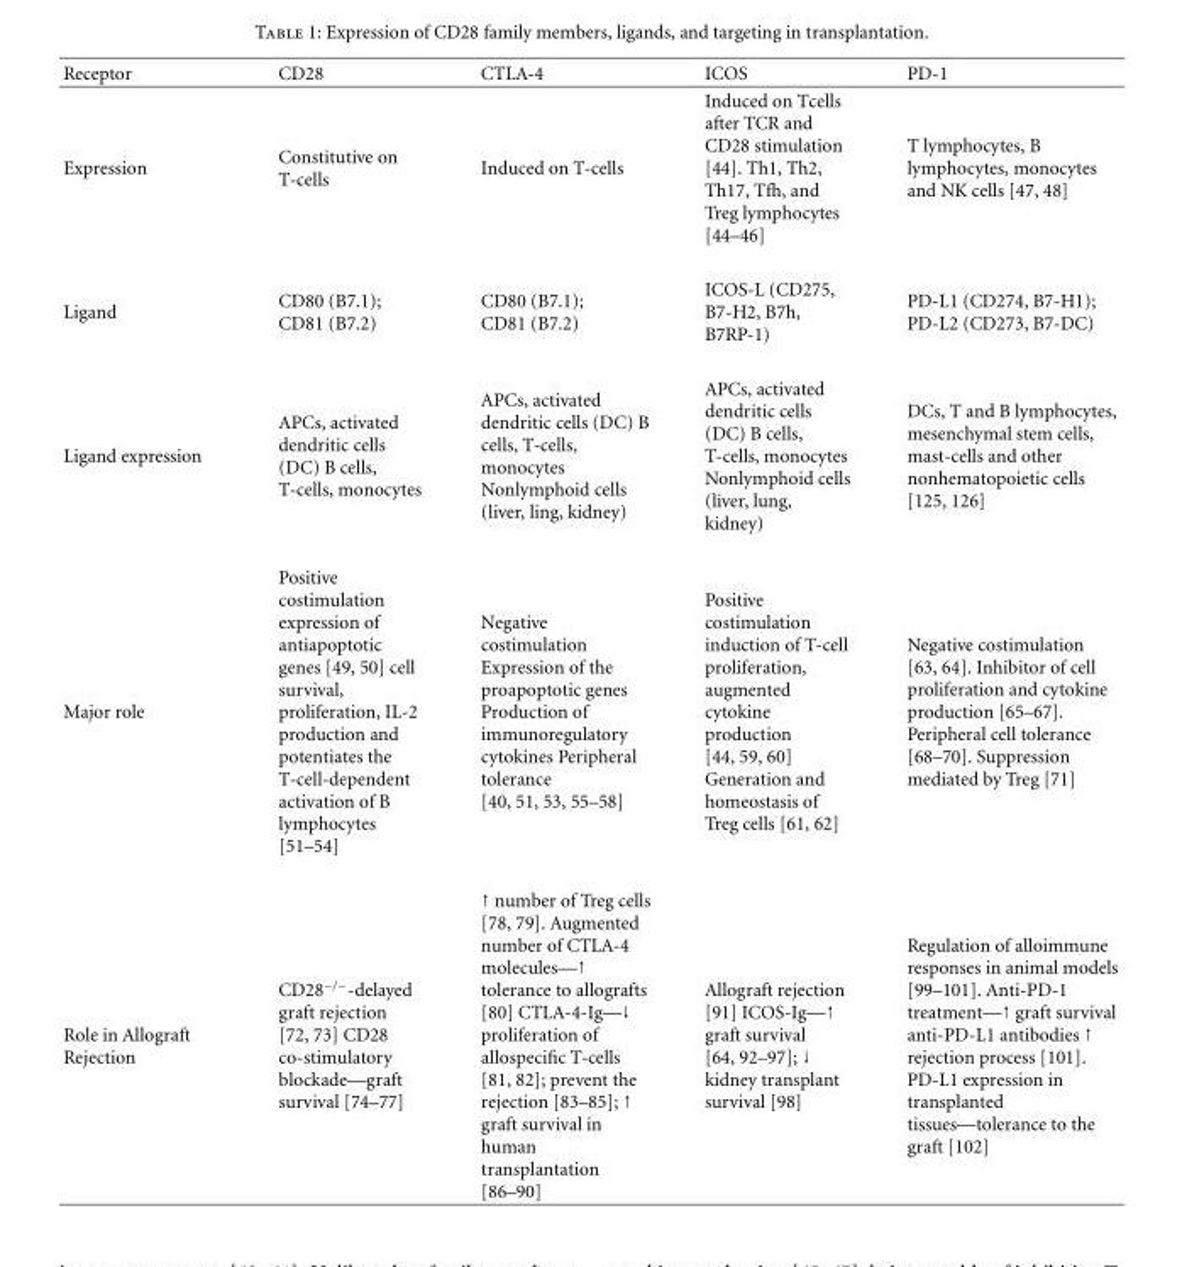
<table><thead><tr><td>Receptor</td><td>CD28</td><td>CTLA-4</td><td>ICOS</td><td>PD-1</td></tr></thead><tbody><tr><td>Expression</td><td>Constitutive on T-cells</td><td>Induced on T-cells</td><td>Induced on Tcells after TCR and CD28 stimulation [44]. Th1, Th2, Th17, Tfh, and Treg lymphocytes [44–46]</td><td>T lymphocytes, B lymphocytes, monocytes and NK cells [47, 48]</td></tr><tr><td>Ligand</td><td>CD80 (B7.1); CD81 (B7.2)</td><td>CD80 (B7.1); CD81 (B7.2)</td><td>ICOS-L (CD275, B7-H2, B7h, B7RP-1)</td><td>PD-L1 (CD274, B7-H1); PD-L2 (CD273, B7-DC)</td></tr><tr><td>Ligand expression</td><td>APCs, activated dendritic cells (DC) B cells, T-cells, monocytes</td><td>APCs, activated dendritic cells (DC) B cells, T-cells, monocytes Nonlymphoid cells (liver, ling, kidney)</td><td>APCs, activated dendritic cells (DC) B cells, T-cells, monocytes Nonlymphoid cells (liver, lung, kidney)</td><td>DCs, T and B lymphocytes, mesenchymal stem cells, mast-cells and other nonhematopoietic cells [125, 126]</td></tr><tr><td>Major role</td><td>Positive costimulation expression of antiapoptotic genes [49, 50] cell survival, proliferation, IL-2 production and potentiates the T-cell-dependent activation of B lymphocytes [51–54]</td><td>Negative costimulation Expression of the proapoptotic genes Production of immunoregulatory cytokines Peripheral tolerance [40, 51, 53, 55–58]</td><td>Positive costimulation induction of T-cell proliferation, augmented cytokine production [44, 59, 60] Generation and homeostasis of Treg cells [61, 62]</td><td>Negative costimulation [63, 64]. Inhibitor of cell proliferation and cytokine production [65–67]. Peripheral cell tolerance [68–70]. Suppression mediated by Treg [71]</td></tr><tr><td>Role in Allograft Rejection</td><td>CD28<sup>−/−</sup>-delayed graft rejection [72, 73] CD28 co-stimulatory blockade—graft survival [74–77]</td><td>↑ number of Treg cells [78, 79]. Augmented number of CTLA-4 molecules—↑ tolerance to allografts [80] CTLA-4-Ig—↓ proliferation of allospecific T-cells [81, 82]; prevent the rejection [83–85]; ↑ graft survival in human transplantation [86–90]</td><td>Allograft rejection [91] ICOS-Ig—↑ graft survival [64, 92–97]; ↓ kidney transplant survival [98]</td><td>Regulation of alloimmune responses in animal models [99–101]. Anti-PD-1 treatment—↑ graft survival anti-PD-L1 antibodies ↑ rejection process [101]. PD-L1 expression in transplanted tissues—tolerance to the graft [102]</td></tr></tbody></table>